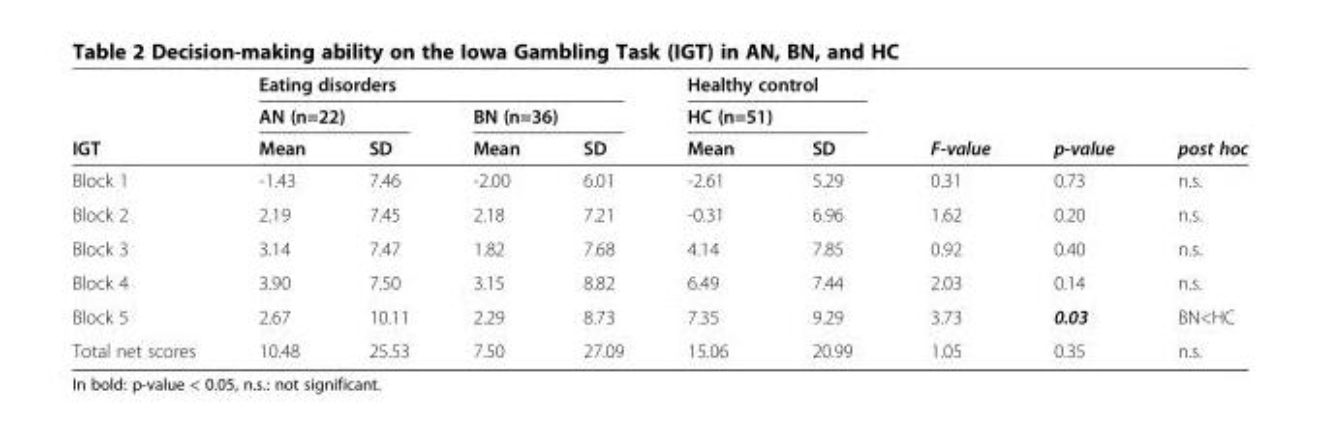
<table><thead><tr><td rowspan="3">IGT</td><td colspan="4">Eating disorders</td><td rowspan="2" colspan="2">Healthy control HC (n=51)</td><td rowspan="3">F-value</td><td rowspan="3">p-value</td><td rowspan="3">post hoc</td></tr><tr><td colspan="2">AN (n=22)</td><td colspan="2">BN (n=36)</td></tr><tr><td>Mean</td><td>SD</td><td>Mean</td><td>SD</td><td>Mean</td><td>SD</td></tr></thead><tbody><tr><td>Block 1</td><td>-1.43</td><td>7.46</td><td>-2.00</td><td>6.01</td><td>-2.61</td><td>5.29</td><td>0.31</td><td>0.73</td><td>n.s.</td></tr><tr><td>Block 2</td><td>2.19</td><td>7.45</td><td>2.18</td><td>7.21</td><td>-0.31</td><td>6.96</td><td>1.62</td><td>0.20</td><td>n.s.</td></tr><tr><td>Block 3</td><td>3.14</td><td>7.47</td><td>1.82</td><td>7.68</td><td>4.14</td><td>7.85</td><td>0.92</td><td>0.40</td><td>n.s.</td></tr><tr><td>Block 4</td><td>3.90</td><td>7.50</td><td>3.15</td><td>8.82</td><td>6.49</td><td>7.44</td><td>2.03</td><td>0.14</td><td>n.s.</td></tr><tr><td>Block 5</td><td>2.67</td><td>10.11</td><td>2.29</td><td>8.73</td><td>7.35</td><td>9.29</td><td>3.73</td><td>0.03</td><td>BN&lt;HC</td></tr><tr><td>Total net scores</td><td>10.48</td><td>25.53</td><td>7.50</td><td>27.09</td><td>15.06</td><td>20.99</td><td>1.05</td><td>0.35</td><td>n.s.</td></tr></tbody></table>